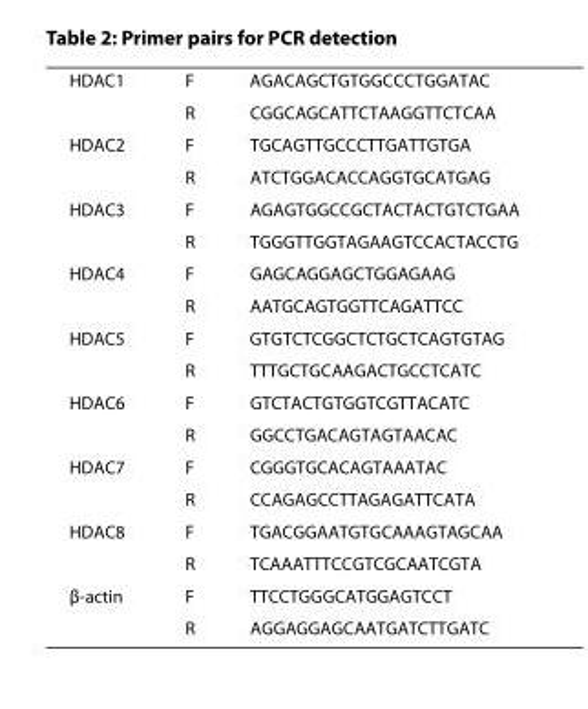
<table><tbody><tr><td rowspan="2">HDAC1</td><td>F</td><td>AGACAGCTGTGGCCCTGGATAC</td></tr><tr><td>R</td><td>CGGCAGCATTCTAAGGTTCTCAA</td></tr><tr><td rowspan="2">HDAC2</td><td>F</td><td>TGCAGTTGCCCTTGATTGTGA</td></tr><tr><td>R</td><td>ATCTGGACACCAGGTGCATGAG</td></tr><tr><td rowspan="2">HDAC3</td><td>F</td><td>AGAGTGGCCGCTACTACTGTCTGAA</td></tr><tr><td>R</td><td>TGGGTTGGTAGAAGTCCACTACCTG</td></tr><tr><td rowspan="2">HDAC4</td><td>F</td><td>GAGCAGGAGCTGGAGAAG</td></tr><tr><td>R</td><td>AATGCAGTGGTTCAGATTCC</td></tr><tr><td rowspan="2">HDAC5</td><td>F</td><td>GTGTCTCGGCTCTGCTCAGTGTAG</td></tr><tr><td>R</td><td>TTTGCTGCAAGACTGCCTCATC</td></tr><tr><td rowspan="2">HDAC6</td><td>F</td><td>GTCTACTGTGGTCGTTACATC</td></tr><tr><td>R</td><td>GGCCTGACAGTAGTAACAC</td></tr><tr><td rowspan="2">HDAC7</td><td>F</td><td>CGGGTGCACAGTAAATAC</td></tr><tr><td>R</td><td>CCAGAGCCTTAGAGATTCATA</td></tr><tr><td rowspan="2">HDAC8</td><td>F</td><td>TGACGGAATGTGCAAAGTAGCAA</td></tr><tr><td>R</td><td>TCAAATTTCCGTCGCAATCGTA</td></tr><tr><td rowspan="2">β-actin</td><td>F</td><td>TTCCTGGGCATGGAGTCCT</td></tr><tr><td>R</td><td>AGGAGGAGCAATGATCTTGATC</td></tr></tbody></table>